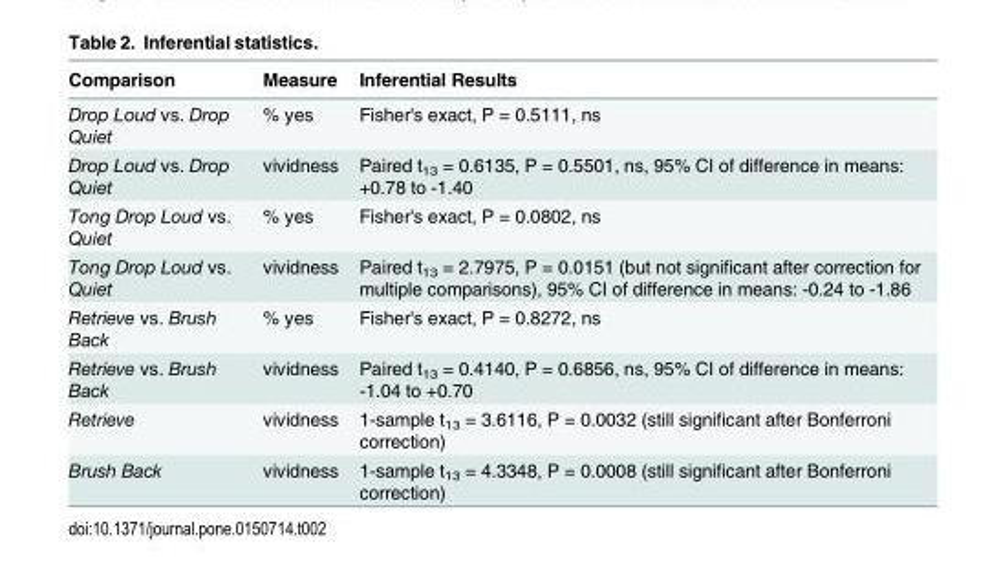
<table><thead><tr><td>Comparison</td><td>Measure</td><td>Inferential Results</td></tr></thead><tbody><tr><td>Drop Loud vs. Drop Quiet</td><td>% yes</td><td>Fisher&#x27;s exact, P = 0.5111, ns</td></tr><tr><td>Drop Loud vs. Drop Quiet</td><td>vividness</td><td>Paired t<sub>13</sub> = 0.6135, P = 0.5501, ns, 95% CI of difference in means: +0.78 to -1.40</td></tr><tr><td>Tong Drop Loud vs. Quiet</td><td>% yes</td><td>Fisher&#x27;s exact, P = 0.0802, ns</td></tr><tr><td>Tong Drop Loud vs. Quiet</td><td>vividness</td><td>Paired t<sub>13</sub> = 2.7975, P = 0.0151 (but not significant after correction for multiple comparisons), 95% CI of difference in means: -0.24 to -1.86</td></tr><tr><td>Retrieve vs. Brush Back</td><td>% yes</td><td>Fisher&#x27;s exact, P = 0.8272, ns</td></tr><tr><td>Retrieve vs. Brush Back</td><td>vividness</td><td>Paired t<sub>13</sub> = 0.4140, P = 0.6856, ns, 95% CI of difference in means: -1.04 to +0.70</td></tr><tr><td>Retrieve</td><td>vividness</td><td>1-sample t<sub>13</sub> = 3.6116, P = 0.0032 (still significant after Bonferroni correction)</td></tr><tr><td>Brush Back</td><td>vividness</td><td>1-sample t<sub>13</sub> = 4.3348, P = 0.0008 (still significant after Bonferroni correction)</td></tr></tbody></table>